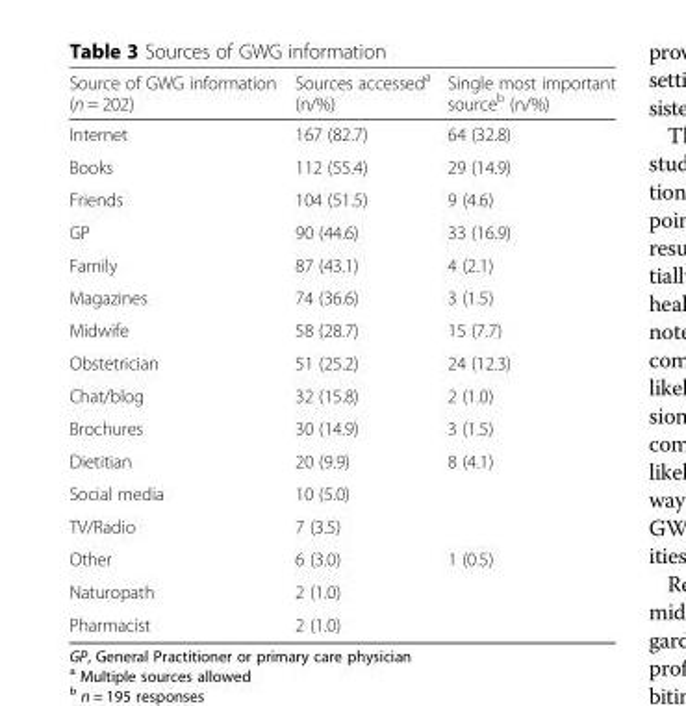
<table><thead><tr><td>Source of GWG information (n = 202)</td><td>Sources accessed<sup>a</sup> (n/%)</td><td>Single most important source<sup>b</sup> (n/%)</td></tr></thead><tbody><tr><td>Internet</td><td>167 (82.7)</td><td>64 (32.8)</td></tr><tr><td>Books</td><td>112 (55.4)</td><td>29 (14.9)</td></tr><tr><td>Friends</td><td>104 (51.5)</td><td>9 (4.6)</td></tr><tr><td>GP</td><td>90 (44.6)</td><td>33 (16.9)</td></tr><tr><td>Family</td><td>87 (43.1)</td><td>4 (2.1)</td></tr><tr><td>Magazines</td><td>74 (36.6)</td><td>3 (1.5)</td></tr><tr><td>Midwife</td><td>58 (28.7)</td><td>15 (7.7)</td></tr><tr><td>Obstetrician</td><td>51 (25.2)</td><td>24 (12.3)</td></tr><tr><td>Chat/blog</td><td>32 (15.8)</td><td>2 (1.0)</td></tr><tr><td>Brochures</td><td>30 (14.9)</td><td>3 (1.5)</td></tr><tr><td>Dietitian</td><td>20 (9.9)</td><td>8 (4.1)</td></tr><tr><td>Social media</td><td>10 (5.0)</td><td></td></tr><tr><td>TV/Radio</td><td>7 (3.5)</td><td></td></tr><tr><td>Other</td><td>6 (3.0)</td><td>1 (0.5)</td></tr><tr><td>Naturopath</td><td>2 (1.0)</td><td></td></tr><tr><td>Pharmacist</td><td>2 (1.0)</td><td></td></tr></tbody></table>